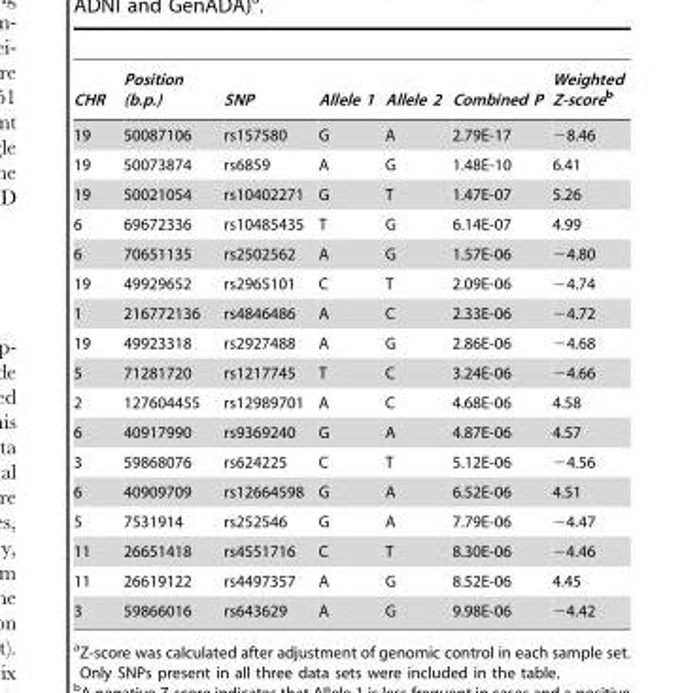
<table><thead><tr><td>CHR</td><td>Position (b.p.)</td><td>SNP</td><td>Allele 1</td><td>Allele 2</td><td>Combined P</td><td>Weighted Z-scoreb</td></tr></thead><tbody><tr><td>19</td><td>50087106</td><td>rs157580</td><td>G</td><td>A</td><td>2.79E-17</td><td>−8.46</td></tr><tr><td>19</td><td>50073874</td><td>rs6859</td><td>A</td><td>G</td><td>1.48E-10</td><td>6.41</td></tr><tr><td>19</td><td>50021054</td><td>rs10402271</td><td>G</td><td>T</td><td>1.47E-07</td><td>5.26</td></tr><tr><td>6</td><td>69672336</td><td>rs10485435</td><td>T</td><td>G</td><td>6.14E-07</td><td>4.99</td></tr><tr><td>6</td><td>70651135</td><td>rs2502562</td><td>A</td><td>G</td><td>1.57E-06</td><td>−4.80</td></tr><tr><td>19</td><td>49929652</td><td>rs2965101</td><td>C</td><td>T</td><td>2.09E-06</td><td>−4.74</td></tr><tr><td>1</td><td>216772136</td><td>rs4846486</td><td>A</td><td>C</td><td>2.33E-06</td><td>−4.72</td></tr><tr><td>19</td><td>49923318</td><td>rs2927488</td><td>A</td><td>G</td><td>2.86E-06</td><td>−4.68</td></tr><tr><td>5</td><td>71281720</td><td>rs1217745</td><td>T</td><td>C</td><td>3.24E-06</td><td>−4.66</td></tr><tr><td>2</td><td>127604455</td><td>rs12989701</td><td>A</td><td>C</td><td>4.68E-06</td><td>4.58</td></tr><tr><td>6</td><td>40917990</td><td>rs9369240</td><td>G</td><td>A</td><td>4.87E-06</td><td>4.57</td></tr><tr><td>3</td><td>59868076</td><td>rs624225</td><td>C</td><td>T</td><td>5.12E-06</td><td>−4.56</td></tr><tr><td>6</td><td>40909709</td><td>rs12664598</td><td>G</td><td>A</td><td>6.52E-06</td><td>4.51</td></tr><tr><td>5</td><td>7531914</td><td>rs252546</td><td>G</td><td>A</td><td>7.79E-06</td><td>−4.47</td></tr><tr><td>11</td><td>26651418</td><td>rs4551716</td><td>C</td><td>T</td><td>8.30E-06</td><td>−4.46</td></tr><tr><td>11</td><td>26619122</td><td>rs4497357</td><td>A</td><td>G</td><td>8.52E-06</td><td>4.45</td></tr><tr><td>3</td><td>59866016</td><td>rs643629</td><td>A</td><td>G</td><td>9.98E-06</td><td>−4.42</td></tr></tbody></table>